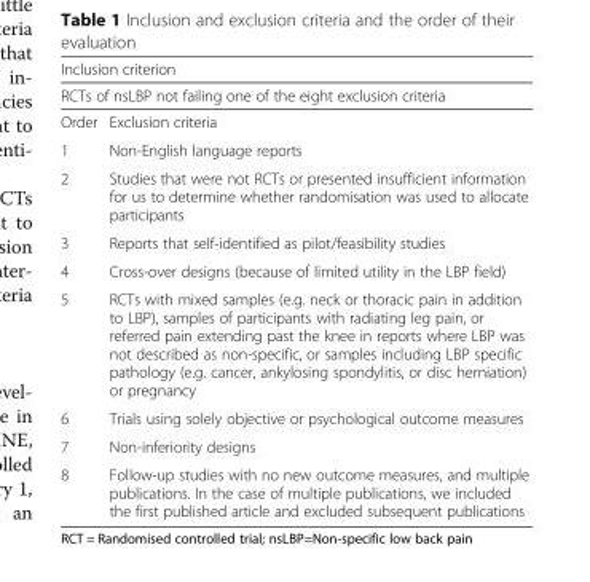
<table><thead><tr><td rowspan="2" colspan="2">Inclusion criterion RCTs of nsLBP not failing one of the eight exclusion criteria</td></tr><tr></tr><tr><td>Order</td><td>Exclusion criteria</td></tr></thead><tbody><tr><td>1</td><td>Non-English language reports</td></tr><tr><td>2</td><td>Studies that were not RCTs or presented insufficient information for us to determine whether randomisation was used to allocate participants</td></tr><tr><td>3</td><td>Reports that self-identified as pilot/feasibility studies</td></tr><tr><td>4</td><td>Cross-over designs (because of limited utility in the LBP field)</td></tr><tr><td>5</td><td>RCTs with mixed samples (e.g. neck or thoracic pain in addition to LBP), samples of participants with radiating leg pain, or referred pain extending past the knee in reports where LBP was not described as non-specific, or samples including LBP specific pathology (e.g. cancer, ankylosing spondylitis, or disc herniation) or pregnancy</td></tr><tr><td>6</td><td>Trials using solely objective or psychological outcome measures</td></tr><tr><td>7</td><td>Non-inferiority designs</td></tr><tr><td>8</td><td>Follow-up studies with no new outcome measures, and multiple publications. In the case of multiple publications, we included the first published article and excluded subsequent publications</td></tr></tbody></table>